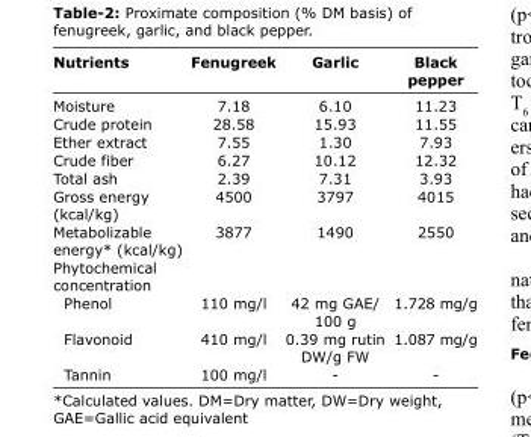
<table><thead><tr><td>Nutrients</td><td>Fenugreek</td><td>Garlic</td><td>Black pepper</td></tr></thead><tbody><tr><td>Moisture</td><td>7.18</td><td>6.10</td><td>11.23</td></tr><tr><td>Crude protein</td><td>28.58</td><td>15.93</td><td>11.55</td></tr><tr><td>Ether extract</td><td>7.55</td><td>1.30</td><td>7.93</td></tr><tr><td>Crude fiber</td><td>6.27</td><td>10.12</td><td>12.32</td></tr><tr><td>Total ash</td><td>2.39</td><td>7.31</td><td>3.93</td></tr><tr><td>Gross energy (kcal/kg)</td><td>4500</td><td>3797</td><td>4015</td></tr><tr><td>Metabolizable energy* (kcal/kg)</td><td>3877</td><td>1490</td><td>2550</td></tr><tr><td colspan="4">Phytochemical concentration</td></tr><tr><td>Phenol</td><td>110 mg/l</td><td>42 mg GAE/ 100 g</td><td>1.728 mg/g</td></tr><tr><td>Flavonoid</td><td>410 mg/l</td><td>0.39 mg rutin DW/g FW</td><td>1.087 mg/g</td></tr><tr><td>Tannin</td><td>100 mg/l</td><td>-</td><td>-</td></tr></tbody></table>